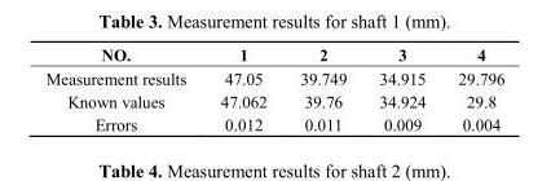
<table><thead><tr><td>NO.</td><td>1</td><td>2</td><td>3</td><td>4</td></tr></thead><tbody><tr><td>Measurement results</td><td>47.05</td><td>39.749</td><td>34.915</td><td>29.796</td></tr><tr><td>Known values</td><td>47.062</td><td>39.76</td><td>34.924</td><td>29.8</td></tr><tr><td>Errors</td><td>0.012</td><td>0.011</td><td>0.009</td><td>0.004</td></tr></tbody></table>